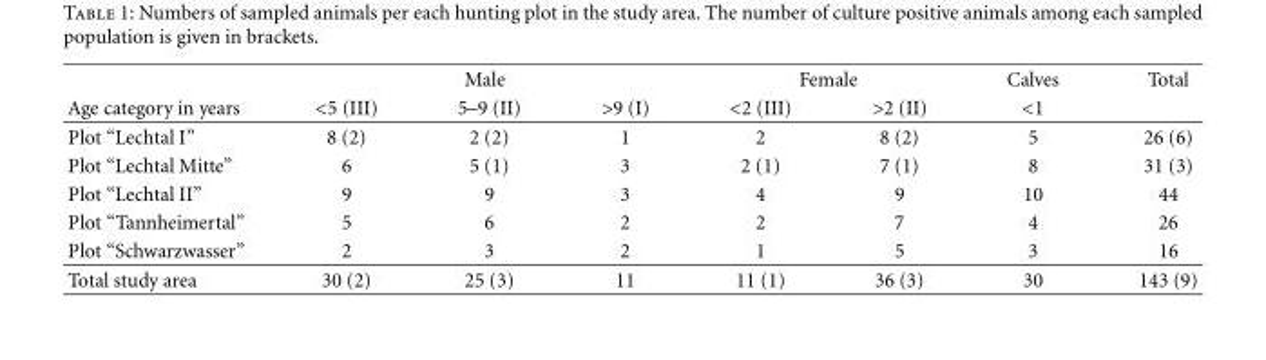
<table><thead><tr><td rowspan="2">Age category in years</td><td colspan="3">Male</td><td colspan="2">Female</td><td rowspan="2">Calves &lt;1</td><td rowspan="2">Total</td></tr><tr><td>&lt;5 (III)</td><td>5–9 (II)</td><td>&gt;9 (I)</td><td>&lt;2 (III)</td><td>&gt;2 (II)</td></tr></thead><tbody><tr><td>Plot “Lechtal I”</td><td>8 (2)</td><td>2 (2)</td><td>1</td><td>2</td><td>8 (2)</td><td>5</td><td>26 (6)</td></tr><tr><td>Plot “Lechtal Mitte”</td><td>6</td><td>5 (1)</td><td>3</td><td>2 (1)</td><td>7 (1)</td><td>8</td><td>31 (3)</td></tr><tr><td>Plot “Lechtal II”</td><td>9</td><td>9</td><td>3</td><td>4</td><td>9</td><td>10</td><td>44</td></tr><tr><td>Plot “Tannheimertal”</td><td>5</td><td>6</td><td>2</td><td>2</td><td>7</td><td>4</td><td>26</td></tr><tr><td>Plot “Schwarzwasser”</td><td>2</td><td>3</td><td>2</td><td>1</td><td>5</td><td>3</td><td>16</td></tr><tr><td>Total study area</td><td>30 (2)</td><td>25 (3)</td><td>11</td><td>11 (1)</td><td>36 (3)</td><td>30</td><td>143 (9)</td></tr></tbody></table>